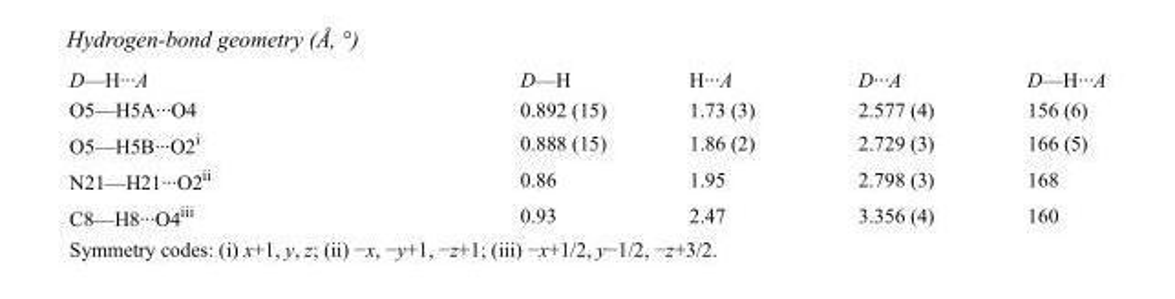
<table><tbody><tr><td>D—H···A</td><td>D—H</td><td>H···A</td><td>D···A</td><td>D—H···A</td></tr><tr><td>O5—H5A···O4</td><td>0.892 (15)</td><td>1.73 (3)</td><td>2.577 (4)</td><td>156 (6)</td></tr><tr><td>O5—H5B···O2<sup>i</sup></td><td>0.888 (15)</td><td>1.86 (2)</td><td>2.729 (3)</td><td>166 (5)</td></tr><tr><td>N21—H21···O2<sup>ii</sup></td><td>0.86</td><td>1.95</td><td>2.798 (3)</td><td>168</td></tr><tr><td>C8—H8···O4<sup>iii</sup></td><td>0.93</td><td>2.47</td><td>3.356 (4)</td><td>160</td></tr></tbody></table>